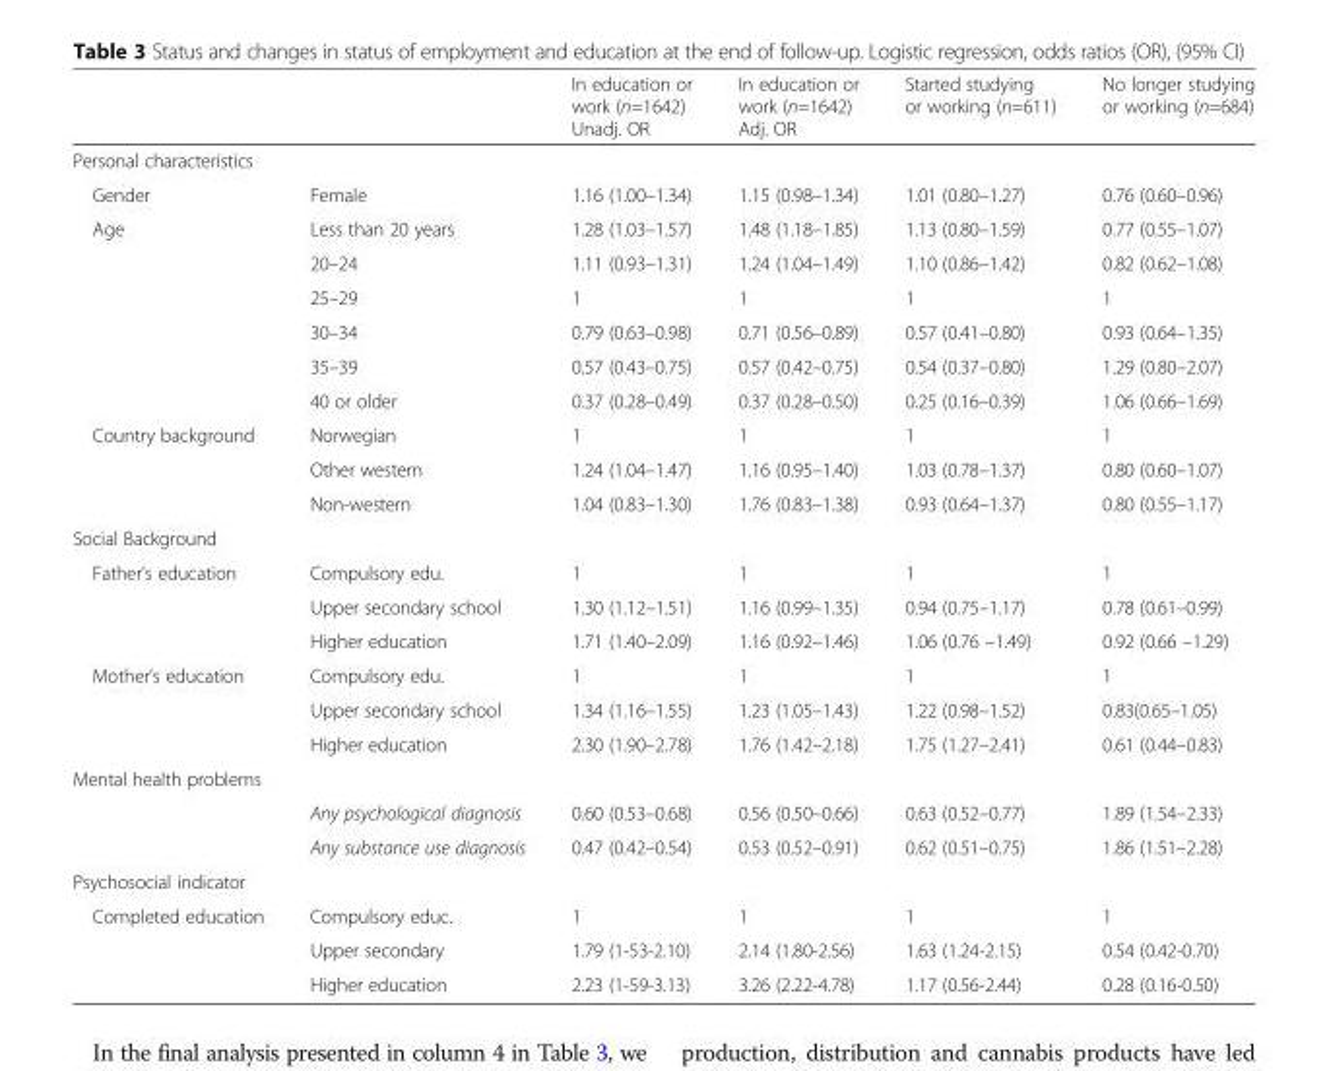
<table><thead><tr><td></td><td></td><td>In education or work (n=1642) Unadj. OR</td><td>In education or work (n=1642) Adj. OR</td><td>Started studying or working (n=611)</td><td>No longer studying or working (n=684)</td></tr></thead><tbody><tr><td colspan="6">Personal characteristics</td></tr><tr><td>Gender</td><td>Female</td><td>1.16 (1.00–1.34)</td><td>1.15 (0.98–1.34)</td><td>1.01 (0.80–1.27)</td><td>0.76 (0.60–0.96)</td></tr><tr><td rowspan="6">Age</td><td>Less than 20 years</td><td>1.28 (1.03–1.57)</td><td>1.48 (1.18–1.85)</td><td>1.13 (0.80–1.59)</td><td>0.77 (0.55–1.07)</td></tr><tr><td>20–24</td><td>1.11 (0.93–1.31)</td><td>1.24 (1.04–1.49)</td><td>1.10 (0.86–1.42)</td><td>0.82 (0.62–1.08)</td></tr><tr><td>25–29</td><td>1</td><td>1</td><td>1</td><td>1</td></tr><tr><td>30–34</td><td>0.79 (0.63–0.98)</td><td>0.71 (0.56–0.89)</td><td>0.57 (0.41–0.80)</td><td>0.93 (0.64–1.35)</td></tr><tr><td>35–39</td><td>0.57 (0.43–0.75)</td><td>0.57 (0.42–0.75)</td><td>0.54 (0.37–0.80)</td><td>1.29 (0.80–2.07)</td></tr><tr><td>40 or older</td><td>0.37 (0.28–0.49)</td><td>0.37 (0.28–0.50)</td><td>0.25 (0.16–0.39)</td><td>1.06 (0.66–1.69)</td></tr><tr><td rowspan="3">Country background</td><td>Norwegian</td><td>1</td><td>1</td><td>1</td><td>1</td></tr><tr><td>Other western</td><td>1.24 (1.04–1.47)</td><td>1.16 (0.95–1.40)</td><td>1.03 (0.78–1.37)</td><td>0.80 (0.60–1.07)</td></tr><tr><td>Non-western</td><td>1.04 (0.83–1.30)</td><td>1.76 (0.83–1.38)</td><td>0.93 (0.64–1.37)</td><td>0.80 (0.55–1.17)</td></tr><tr><td colspan="6">Social Background</td></tr><tr><td rowspan="3">Father’s education</td><td>Compulsory edu.</td><td>1</td><td>1</td><td>1</td><td>1</td></tr><tr><td>Upper secondary school</td><td>1.30 (1.12–1.51)</td><td>1.16 (0.99–1.35)</td><td>0.94 (0.75–1.17)</td><td>0.78 (0.61–0.99)</td></tr><tr><td>Higher education</td><td>1.71 (1.40–2.09)</td><td>1.16 (0.92–1.46)</td><td>1.06 (0.76 –1.49)</td><td>0.92 (0.66 –1.29)</td></tr><tr><td rowspan="3">Mother’s education</td><td>Compulsory edu.</td><td>1</td><td>1</td><td>1</td><td>1</td></tr><tr><td>Upper secondary school</td><td>1.34 (1.16–1.55)</td><td>1.23 (1.05–1.43)</td><td>1.22 (0.98–1.52)</td><td>0.83(0.65–1.05)</td></tr><tr><td>Higher education</td><td>2.30 (1.90–2.78)</td><td>1.76 (1.42–2.18)</td><td>1.75 (1.27–2.41)</td><td>0.61 (0.44–0.83)</td></tr><tr><td colspan="6">Mental health problems</td></tr><tr><td rowspan="2"></td><td>Any psychological diagnosis</td><td>0.60 (0.53–0.68)</td><td>0.56 (0.50–0.66)</td><td>0.63 (0.52–0.77)</td><td>1.89 (1.54–2.33)</td></tr><tr><td>Any substance use diagnosis</td><td>0.47 (0.42–0.54)</td><td>0.53 (0.52–0.91)</td><td>0.62 (0.51–0.75)</td><td>1.86 (1.51–2.28)</td></tr><tr><td colspan="6">Psychosocial indicator</td></tr><tr><td rowspan="3">Completed education</td><td>Compulsory educ.</td><td>1</td><td>1</td><td>1</td><td>1</td></tr><tr><td>Upper secondary</td><td>1.79 (1-53-2.10)</td><td>2.14 (1.80-2.56)</td><td>1.63 (1.24-2.15)</td><td>0.54 (0.42-0.70)</td></tr><tr><td>Higher education</td><td>2.23 (1-59-3.13)</td><td>3.26 (2.22-4.78)</td><td>1.17 (0.56-2.44)</td><td>0.28 (0.16-0.50)</td></tr></tbody></table>